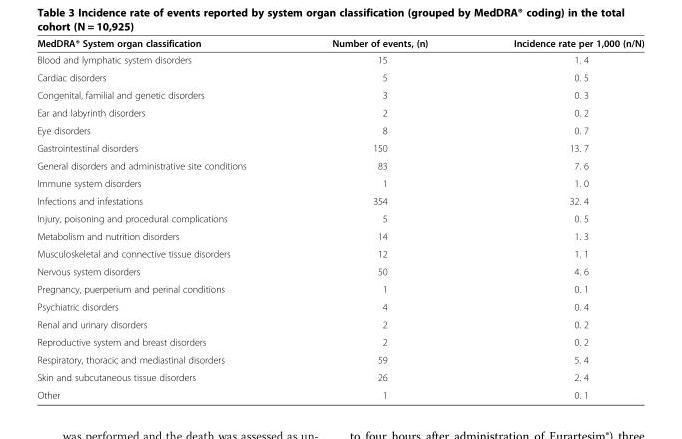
<table><thead><tr><td>MedDRA® System organ classification</td><td>Number of events, (n)</td><td>Incidence rate per 1,000 (n/N)</td></tr></thead><tbody><tr><td>Blood and lymphatic system disorders</td><td>15</td><td>1. 4</td></tr><tr><td>Cardiac disorders</td><td>5</td><td>0. 5</td></tr><tr><td>Congenital, familial and genetic disorders</td><td>3</td><td>0. 3</td></tr><tr><td>Ear and labyrinth disorders</td><td>2</td><td>0. 2</td></tr><tr><td>Eye disorders</td><td>8</td><td>0. 7</td></tr><tr><td>Gastrointestinal disorders</td><td>150</td><td>13. 7</td></tr><tr><td>General disorders and administrative site conditions</td><td>83</td><td>7. 6</td></tr><tr><td>Immune system disorders</td><td>1</td><td>1. 0</td></tr><tr><td>Infections and infestations</td><td>354</td><td>32. 4</td></tr><tr><td>Injury, poisoning and procedural complications</td><td>5</td><td>0. 5</td></tr><tr><td>Metabolism and nutrition disorders</td><td>14</td><td>1. 3</td></tr><tr><td>Musculoskeletal and connective tissue disorders</td><td>12</td><td>1. 1</td></tr><tr><td>Nervous system disorders</td><td>50</td><td>4. 6</td></tr><tr><td>Pregnancy, puerperium and perinal conditions</td><td>1</td><td>0. 1</td></tr><tr><td>Psychiatric disorders</td><td>4</td><td>0. 4</td></tr><tr><td>Renal and urinary disorders</td><td>2</td><td>0. 2</td></tr><tr><td>Reproductive system and breast disorders</td><td>2</td><td>0. 2</td></tr><tr><td>Respiratory, thoracic and mediastinal disorders</td><td>59</td><td>5. 4</td></tr><tr><td>Skin and subcutaneous tissue disorders</td><td>26</td><td>2. 4</td></tr><tr><td>Other</td><td>1</td><td>0. 1</td></tr></tbody></table>